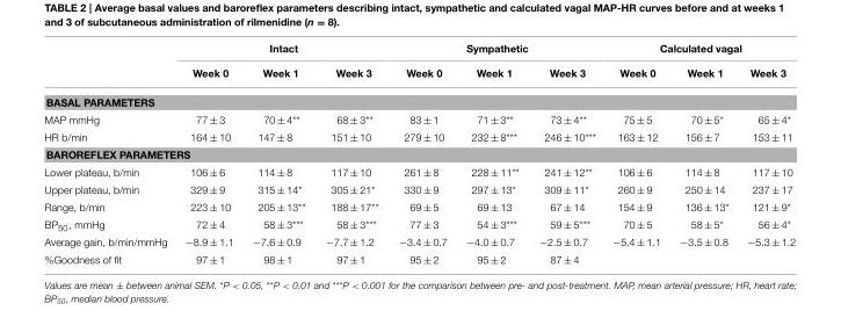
<table><thead><tr><td rowspan="2"></td><td colspan="3">Intact</td><td colspan="3">Sympathetic</td><td colspan="3">Calculated vagal</td></tr><tr><td>Week 0</td><td>Week 1</td><td>Week 3</td><td>Week 0</td><td>Week 1</td><td>Week 3</td><td>Week 0</td><td>Week 1</td><td>Week 3</td></tr></thead><tbody><tr><td colspan="10">BASAL PARAMETERS</td></tr><tr><td>MAP mmHg</td><td>77 ± 3</td><td>70 ± 4**</td><td>68 ± 3**</td><td>83 ± 1</td><td>71 ± 3**</td><td>73 ± 4**</td><td>75 ± 5</td><td>70 ± 5*</td><td>65 ± 4*</td></tr><tr><td>HR b/min</td><td>164 ± 10</td><td>147 ± 8</td><td>151 ± 10</td><td>279 ± 10</td><td>232 ± 8***</td><td>246 ± 10***</td><td>163 ± 12</td><td>156 ± 7</td><td>153 ± 11</td></tr><tr><td colspan="10">BAROREFLEX PARAMETERS</td></tr><tr><td>Lower plateau, b/min</td><td>106 ± 6</td><td>114 ± 8</td><td>117 ± 10</td><td>261 ± 8</td><td>228 ± 11**</td><td>241 ± 12**</td><td>106 ± 6</td><td>114 ± 8</td><td>117 ± 10</td></tr><tr><td>Upper plateau, b/min</td><td>329 ± 9</td><td>315 ± 14*</td><td>305 ± 21*</td><td>330 ± 9</td><td>297 ± 13*</td><td>309 ± 11*</td><td>260 ± 9</td><td>250 ± 14</td><td>237 ± 17</td></tr><tr><td>Range, b/min</td><td>223 ± 10</td><td>205 ± 13**</td><td>188 ± 17**</td><td>69 ± 5</td><td>69 ± 13</td><td>67 ± 14</td><td>154 ± 9</td><td>136 ± 13*</td><td>121 ± 9*</td></tr><tr><td>BP<sub>50</sub>, mmHg</td><td>72 ± 4</td><td>58 ± 3***</td><td>58 ± 3***</td><td>77 ± 3</td><td>54 ± 3***</td><td>59 ± 5***</td><td>70 ± 5</td><td>58 ± 5*</td><td>56 ± 4*</td></tr><tr><td>Average gain, b/min/mmHg</td><td>−8.9 ± 1.1</td><td>−7.6 ± 0.9</td><td>−7.7 ± 1.2</td><td>−3.4 ± 0.7</td><td>−4.0 ± 0.7</td><td>−2.5 ± 0.7</td><td>−5.4 ± 1.1</td><td>−3.5 ± 0.8</td><td>−5.3 ± 1.2</td></tr><tr><td>%Goodness of fit</td><td>97 ± 1</td><td>98 ± 1</td><td>97 ± 1</td><td>95 ± 2</td><td>95 ± 2</td><td>87 ± 4</td><td></td><td></td><td></td></tr></tbody></table>